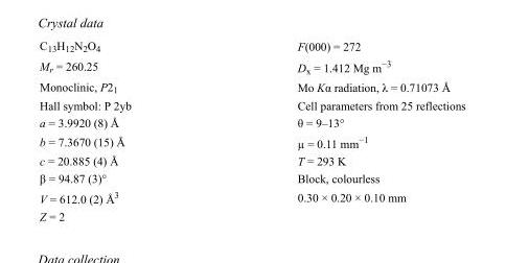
<table><tbody><tr><td>C<sub>13</sub>H<sub>12</sub>N<sub>2</sub>O<sub>4</sub></td><td>F(000) = 272</td></tr><tr><td>M<sub>r</sub> = 260.25</td><td>D<sub>x</sub> = 1.412 Mg m<sup>−3</sup></td></tr><tr><td>Monoclinic, P2<sub>1</sub></td><td>Mo Kα radiation, λ = 0.71073 Å</td></tr><tr><td>Hall symbol: P 2yb</td><td>Cell parameters from 25 reflections</td></tr><tr><td>a = 3.9920 (8) Å</td><td>θ = 9–13°</td></tr><tr><td>b = 7.3670 (15) Å</td><td>µ = 0.11 mm<sup>−1</sup></td></tr><tr><td>c = 20.885 (4) Å</td><td>T = 293 K</td></tr><tr><td>β = 94.87 (3)°</td><td>Block, colourless</td></tr><tr><td>V = 612.0 (2) Å<sup>3</sup></td><td>0.30 × 0.20 × 0.10 mm</td></tr><tr><td>Z = 2</td><td></td></tr></tbody></table>